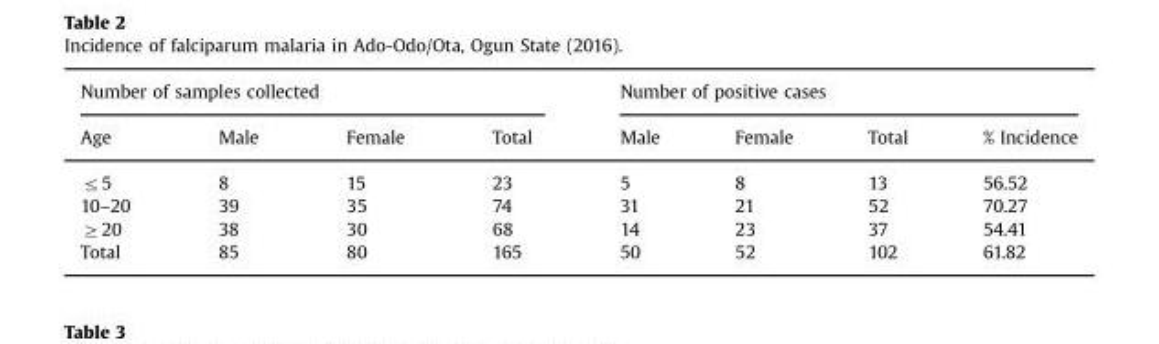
<table><thead><tr><td colspan="4">Number of samples collected</td><td colspan="4">Number of positive cases</td></tr><tr><td>Age</td><td>Male</td><td>Female</td><td>Total</td><td>Male</td><td>Female</td><td>Total</td><td>% Incidence</td></tr></thead><tbody><tr><td>≤5</td><td>8</td><td>15</td><td>23</td><td>5</td><td>8</td><td>13</td><td>56.52</td></tr><tr><td>10–20</td><td>39</td><td>35</td><td>74</td><td>31</td><td>21</td><td>52</td><td>70.27</td></tr><tr><td>≥20</td><td>38</td><td>30</td><td>68</td><td>14</td><td>23</td><td>37</td><td>54.41</td></tr><tr><td>Total</td><td>85</td><td>80</td><td>165</td><td>50</td><td>52</td><td>102</td><td>61.82</td></tr></tbody></table>